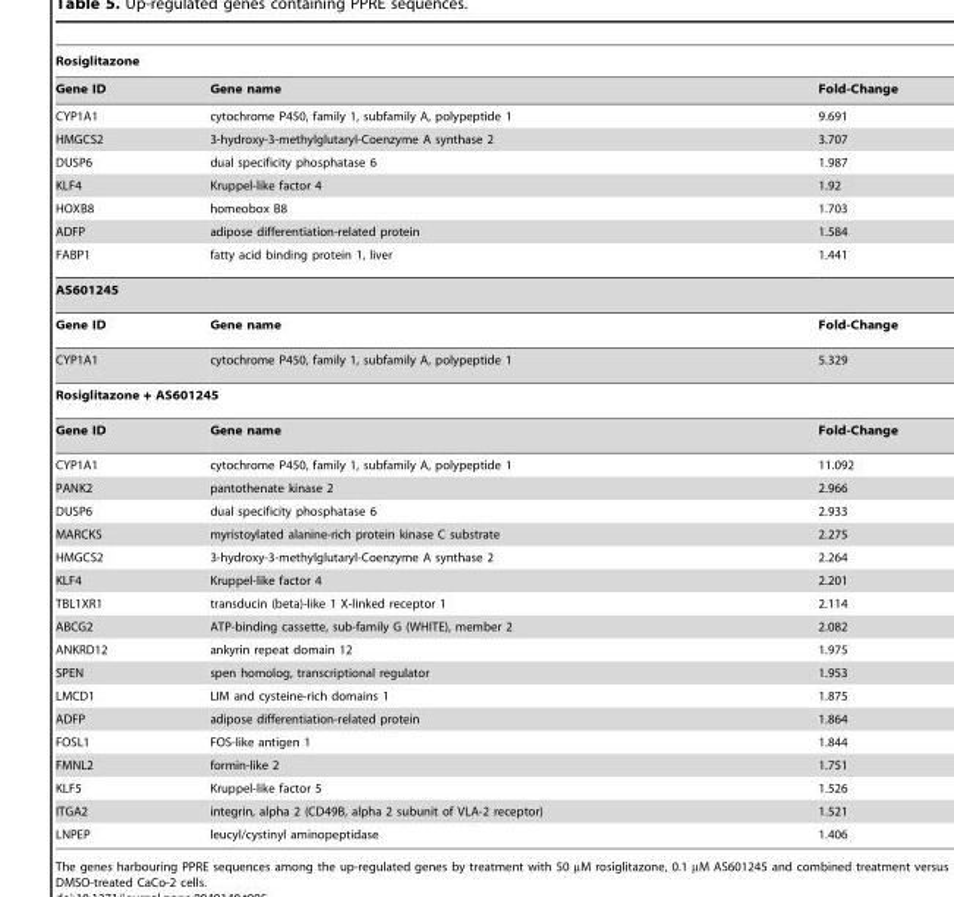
<table><thead><tr><td colspan="3">Rosiglitazone</td></tr><tr><td>Gene ID</td><td>Gene name</td><td>Fold-Change</td></tr></thead><tbody><tr><td>CYP1A1</td><td>cytochrome P450, family 1, subfamily A, polypeptide 1</td><td>9.691</td></tr><tr><td>HMGCS2</td><td>3-hydroxy-3-methylglutaryl-Coenzyme A synthase 2</td><td>3.707</td></tr><tr><td>DUSP6</td><td>dual specificity phosphatase 6</td><td>1.987</td></tr><tr><td>KLF4</td><td>Kruppel-like factor 4</td><td>1.92</td></tr><tr><td>HOXB8</td><td>homeobox B8</td><td>1.703</td></tr><tr><td>ADFP</td><td>adipose differentiation-related protein</td><td>1.584</td></tr><tr><td>FABP1</td><td>fatty acid binding protein 1, liver</td><td>1.441</td></tr><tr><td colspan="3">AS601245</td></tr><tr><td>Gene ID</td><td>Gene name</td><td>Fold-Change</td></tr><tr><td>CYP1A1</td><td>cytochrome P450, family 1, subfamily A, polypeptide 1</td><td>5.329</td></tr><tr><td colspan="3">Rosiglitazone + AS601245</td></tr><tr><td>Gene ID</td><td>Gene name</td><td>Fold-Change</td></tr><tr><td>CYP1A1</td><td>cytochrome P450, family 1, subfamily A, polypeptide 1</td><td>11.092</td></tr><tr><td>PANK2</td><td>pantothenate kinase 2</td><td>2.966</td></tr><tr><td>DUSP6</td><td>dual specificity phosphatase 6</td><td>2.933</td></tr><tr><td>MARCKS</td><td>myristoylated alanine-rich protein kinase C substrate</td><td>2.275</td></tr><tr><td>HMGCS2</td><td>3-hydroxy-3-methylglutaryl-Coenzyme A synthase 2</td><td>2.264</td></tr><tr><td>KLF4</td><td>Kruppel-like factor 4</td><td>2.201</td></tr><tr><td>TBL1XR1</td><td>transducin (beta)-like 1 X-linked receptor 1</td><td>2.114</td></tr><tr><td>ABCG2</td><td>ATP-binding cassette, sub-family G (WHITE), member 2</td><td>2.082</td></tr><tr><td>ANKRD12</td><td>ankyrin repeat domain 12</td><td>1.975</td></tr><tr><td>SPEN</td><td>spen homolog, transcriptional regulator</td><td>1.953</td></tr><tr><td>LMCD1</td><td>LIM and cysteine-rich domains 1</td><td>1.875</td></tr><tr><td>ADFP</td><td>adipose differentiation-related protein</td><td>1.864</td></tr><tr><td>FOSL1</td><td>FOS-like antigen 1</td><td>1.844</td></tr><tr><td>FMNL2</td><td>formin-like 2</td><td>1.751</td></tr><tr><td>KLF5</td><td>Kruppel-like factor 5</td><td>1.526</td></tr><tr><td>ITGA2</td><td>integrin, alpha 2 (CD49B, alpha 2 subunit of VLA-2 receptor)</td><td>1.521</td></tr><tr><td>LNPEP</td><td>leucyl/cystinyl aminopeptidase</td><td>1.406</td></tr></tbody></table>